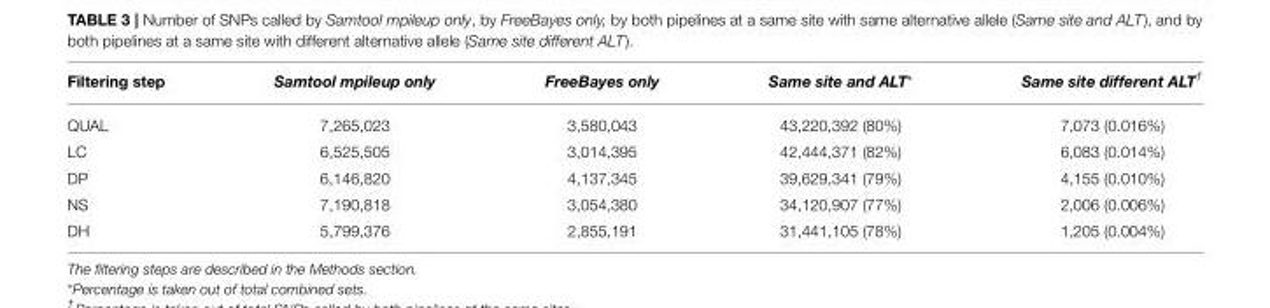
<table><thead><tr><td>Filtering step</td><td>Samtool mpileup only</td><td>FreeBayes only</td><td>Same site and ALT*</td><td>Same site different ALT<sup>†</sup></td></tr></thead><tbody><tr><td>QUAL</td><td>7,265,023</td><td>3,580,043</td><td>43,220,392 (80%)</td><td>7,073 (0.016%)</td></tr><tr><td>LC</td><td>6,525,505</td><td>3,014,395</td><td>42,444,371 (82%)</td><td>6,083 (0.014%)</td></tr><tr><td>DP</td><td>6,146,820</td><td>4,137,345</td><td>39,629,341 (79%)</td><td>4,155 (0.010%)</td></tr><tr><td>NS</td><td>7,190,818</td><td>3,054,380</td><td>34,120,907 (77%)</td><td>2,006 (0.006%)</td></tr><tr><td>DH</td><td>5,799,376</td><td>2,855,191</td><td>31,441,105 (78%)</td><td>1,205 (0.004%)</td></tr></tbody></table>